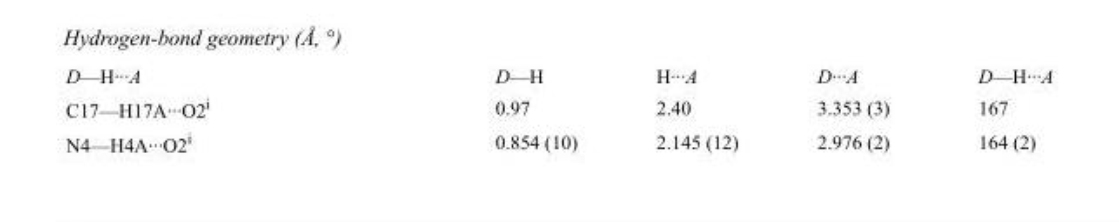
<table><tbody><tr><td>D—H···A</td><td>D—H</td><td>H···A</td><td>D···A</td><td>D—H···A</td></tr><tr><td>C17—H17A···O2<sup>i</sup></td><td>0.97</td><td>2.40</td><td>3.353 (3)</td><td>167</td></tr><tr><td>N4—H4A···O2<sup>i</sup></td><td>0.854 (10)</td><td>2.145 (12)</td><td>2.976 (2)</td><td>164 (2)</td></tr></tbody></table>